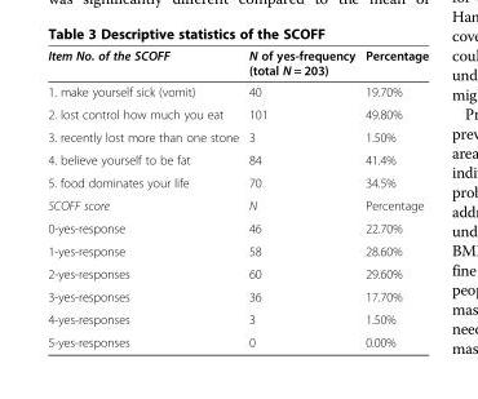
<table><thead><tr><td>Item No. of the SCOFF</td><td>N of yes-frequency (total N = 203)</td><td>Percentage</td></tr></thead><tbody><tr><td>1. make yourself sick (vomit)</td><td>40</td><td>19.70%</td></tr><tr><td>2. lost control how much you eat</td><td>101</td><td>49.80%</td></tr><tr><td>3. recently lost more than one stone</td><td>3</td><td>1.50%</td></tr><tr><td>4. believe yourself to be fat</td><td>84</td><td>41.4%</td></tr><tr><td>5. food dominates your life</td><td>70</td><td>34.5%</td></tr><tr><td>SCOFF score</td><td>N</td><td>Percentage</td></tr><tr><td>0-yes-response</td><td>46</td><td>22.70%</td></tr><tr><td>1-yes-response</td><td>58</td><td>28.60%</td></tr><tr><td>2-yes-responses</td><td>60</td><td>29.60%</td></tr><tr><td>3-yes-responses</td><td>36</td><td>17.70%</td></tr><tr><td>4-yes-responses</td><td>3</td><td>1.50%</td></tr><tr><td>5-yes-responses</td><td>0</td><td>0.00%</td></tr></tbody></table>